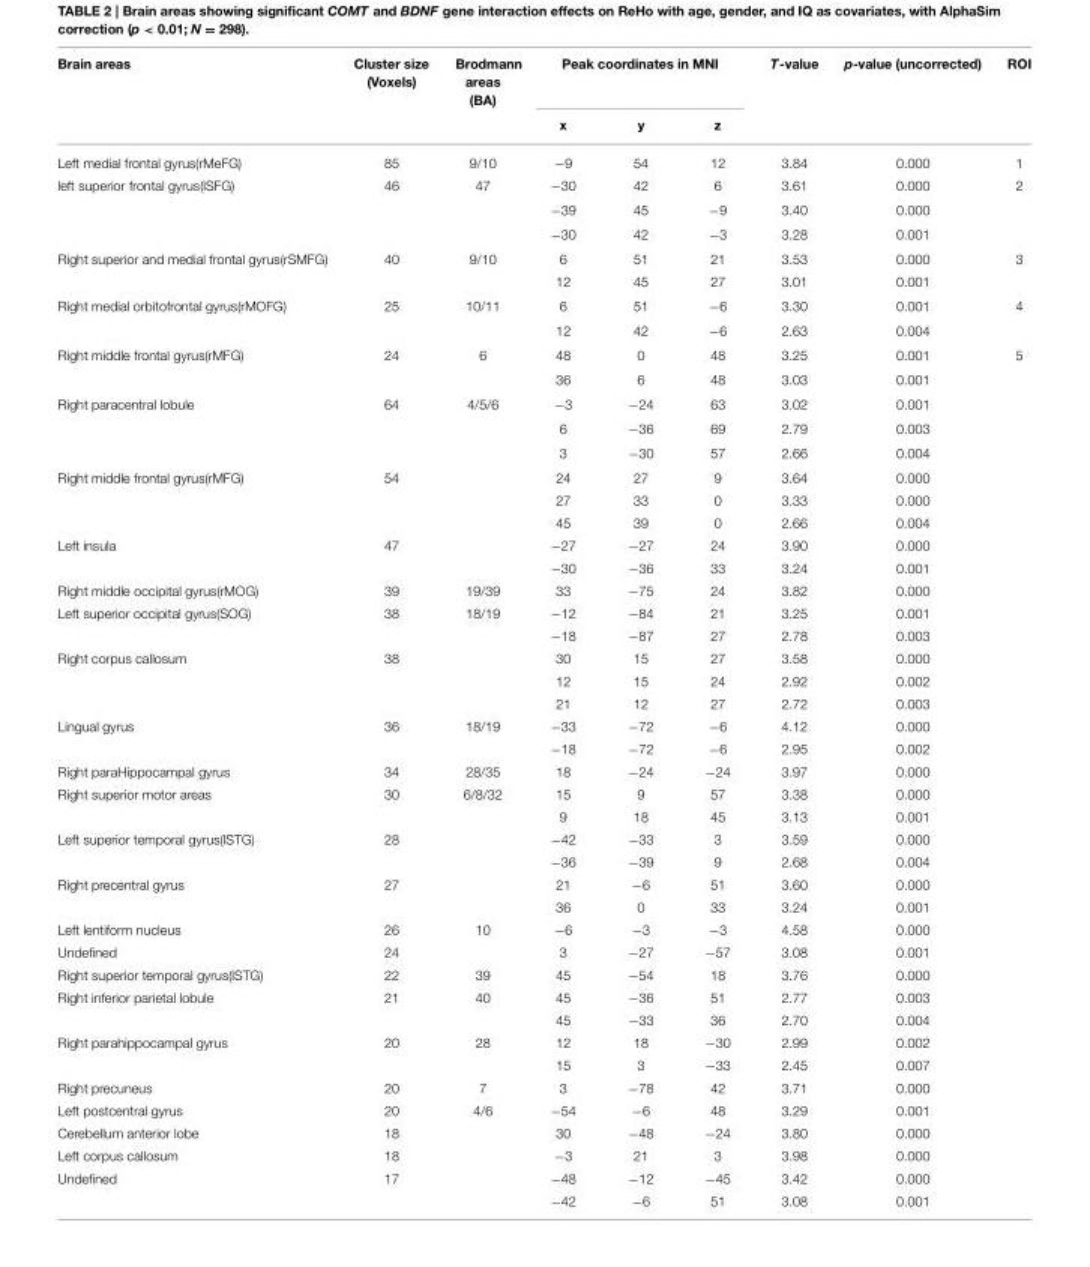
<table><thead><tr><td rowspan="2">Brain areas</td><td rowspan="2">Cluster size (Voxels)</td><td rowspan="2">Brodmann areas (BA)</td><td colspan="3">Peak coordinates in MNI</td><td rowspan="2">T-value</td><td rowspan="2">p-value (uncorrected)</td><td rowspan="2">ROI</td></tr><tr><td>x</td><td>y</td><td>z</td></tr></thead><tbody><tr><td>Left medial frontal gyrus(rMeFG)</td><td>85</td><td>9/10</td><td>−9</td><td>54</td><td>12</td><td>3.84</td><td>0.000</td><td>1</td></tr><tr><td rowspan="3">left superior frontal gyrus(lSFG)</td><td>46</td><td>47</td><td>−30</td><td>42</td><td>6</td><td>3.61</td><td>0.000</td><td>2</td></tr><tr><td></td><td></td><td>−39</td><td>45</td><td>−9</td><td>3.40</td><td>0.000</td><td></td></tr><tr><td></td><td></td><td>−30</td><td>42</td><td>−3</td><td>3.28</td><td>0.001</td><td></td></tr><tr><td rowspan="2">Right superior and medial frontal gyrus(rSMFG)</td><td>40</td><td>9/10</td><td>6</td><td>51</td><td>21</td><td>3.53</td><td>0.000</td><td>3</td></tr><tr><td></td><td></td><td>12</td><td>45</td><td>27</td><td>3.01</td><td>0.001</td><td></td></tr><tr><td rowspan="2">Right medial orbitofrontal gyrus(rMOFG)</td><td>25</td><td>10/11</td><td>6</td><td>51</td><td>−6</td><td>3.30</td><td>0.001</td><td>4</td></tr><tr><td></td><td></td><td>12</td><td>42</td><td>−6</td><td>2.63</td><td>0.004</td><td></td></tr><tr><td rowspan="2">Right middle frontal gyrus(rMFG)</td><td>24</td><td>6</td><td>48</td><td>0</td><td>48</td><td>3.25</td><td>0.001</td><td>5</td></tr><tr><td></td><td></td><td>36</td><td>6</td><td>48</td><td>3.03</td><td>0.001</td><td></td></tr><tr><td rowspan="3">Right paracentral lobule</td><td>64</td><td>4/5/6</td><td>−3</td><td>−24</td><td>63</td><td>3.02</td><td>0.001</td><td></td></tr><tr><td></td><td></td><td>6</td><td>−36</td><td>69</td><td>2.79</td><td>0.003</td><td></td></tr><tr><td></td><td></td><td>3</td><td>−30</td><td>57</td><td>2.66</td><td>0.004</td><td></td></tr><tr><td rowspan="3">Right middle frontal gyrus(rMFG)</td><td>54</td><td></td><td>24</td><td>27</td><td>9</td><td>3.64</td><td>0.000</td><td></td></tr><tr><td></td><td></td><td>27</td><td>33</td><td>0</td><td>3.33</td><td>0.000</td><td></td></tr><tr><td></td><td></td><td>45</td><td>39</td><td>0</td><td>2.66</td><td>0.004</td><td></td></tr><tr><td rowspan="2">Left insula</td><td>47</td><td></td><td>−27</td><td>−27</td><td>24</td><td>3.90</td><td>0.000</td><td></td></tr><tr><td></td><td></td><td>−30</td><td>−36</td><td>33</td><td>3.24</td><td>0.001</td><td></td></tr><tr><td>Right middle occipital gyrus(rMOG)</td><td>39</td><td>19/39</td><td>33</td><td>−75</td><td>24</td><td>3.82</td><td>0.000</td><td></td></tr><tr><td rowspan="2">Left superior occipital gyrus(SOG)</td><td>38</td><td>18/19</td><td>−12</td><td>−84</td><td>21</td><td>3.25</td><td>0.001</td><td></td></tr><tr><td></td><td></td><td>−18</td><td>−87</td><td>27</td><td>2.78</td><td>0.003</td><td></td></tr><tr><td rowspan="3">Right corpus callosum</td><td>38</td><td></td><td>30</td><td>15</td><td>27</td><td>3.58</td><td>0.000</td><td></td></tr><tr><td></td><td></td><td>12</td><td>15</td><td>24</td><td>2.92</td><td>0.002</td><td></td></tr><tr><td></td><td></td><td>21</td><td>12</td><td>27</td><td>2.72</td><td>0.003</td><td></td></tr><tr><td rowspan="2">Lingual gyrus</td><td>36</td><td>18/19</td><td>−33</td><td>−72</td><td>−6</td><td>4.12</td><td>0.000</td><td></td></tr><tr><td></td><td></td><td>−18</td><td>−72</td><td>−6</td><td>2.95</td><td>0.002</td><td></td></tr><tr><td>Right paraHippocampal gyrus</td><td>34</td><td>28/35</td><td>18</td><td>−24</td><td>−24</td><td>3.97</td><td>0.000</td><td></td></tr><tr><td rowspan="2">Right superior motor areas</td><td>30</td><td>6/8/32</td><td>15</td><td>9</td><td>57</td><td>3.38</td><td>0.000</td><td></td></tr><tr><td></td><td></td><td>9</td><td>18</td><td>45</td><td>3.13</td><td>0.001</td><td></td></tr><tr><td rowspan="2">Left superior temporal gyrus(lSTG)</td><td>28</td><td></td><td>−42</td><td>−33</td><td>3</td><td>3.59</td><td>0.000</td><td></td></tr><tr><td></td><td></td><td>−36</td><td>−39</td><td>9</td><td>2.68</td><td>0.004</td><td></td></tr><tr><td rowspan="2">Right precentral gyrus</td><td>27</td><td></td><td>21</td><td>−6</td><td>51</td><td>3.60</td><td>0.000</td><td></td></tr><tr><td></td><td></td><td>36</td><td>0</td><td>33</td><td>3.24</td><td>0.001</td><td></td></tr><tr><td>Left lentiform nucleus</td><td>26</td><td>10</td><td>−6</td><td>−3</td><td>−3</td><td>4.58</td><td>0.000</td><td></td></tr><tr><td>Undefined</td><td>24</td><td></td><td>3</td><td>−27</td><td>−57</td><td>3.08</td><td>0.001</td><td></td></tr><tr><td>Right superior temporal gyrus(lSTG)</td><td>22</td><td>39</td><td>45</td><td>−54</td><td>18</td><td>3.76</td><td>0.000</td><td></td></tr><tr><td rowspan="2">Right inferior parietal lobule</td><td>21</td><td>40</td><td>45</td><td>−36</td><td>51</td><td>2.77</td><td>0.003</td><td></td></tr><tr><td></td><td></td><td>45</td><td>−33</td><td>36</td><td>2.70</td><td>0.004</td><td></td></tr><tr><td rowspan="2">Right parahippocampal gyrus</td><td>20</td><td>28</td><td>12</td><td>18</td><td>−30</td><td>2.99</td><td>0.002</td><td></td></tr><tr><td></td><td></td><td>15</td><td>3</td><td>−33</td><td>2.45</td><td>0.007</td><td></td></tr><tr><td>Right precuneus</td><td>20</td><td>7</td><td>3</td><td>−78</td><td>42</td><td>3.71</td><td>0.000</td><td></td></tr><tr><td>Left postcentral gyrus</td><td>20</td><td>4/6</td><td>−54</td><td>−6</td><td>48</td><td>3.29</td><td>0.001</td><td></td></tr><tr><td>Cerebellum anterior lobe</td><td>18</td><td></td><td>30</td><td>−48</td><td>−24</td><td>3.80</td><td>0.000</td><td></td></tr><tr><td>Left corpus callosum</td><td>18</td><td></td><td>−3</td><td>21</td><td>3</td><td>3.98</td><td>0.000</td><td></td></tr><tr><td rowspan="2">Undefined</td><td>17</td><td></td><td>−48</td><td>−12</td><td>−45</td><td>3.42</td><td>0.000</td><td></td></tr><tr><td></td><td></td><td>−42</td><td>−6</td><td>51</td><td>3.08</td><td>0.001</td><td></td></tr></tbody></table>